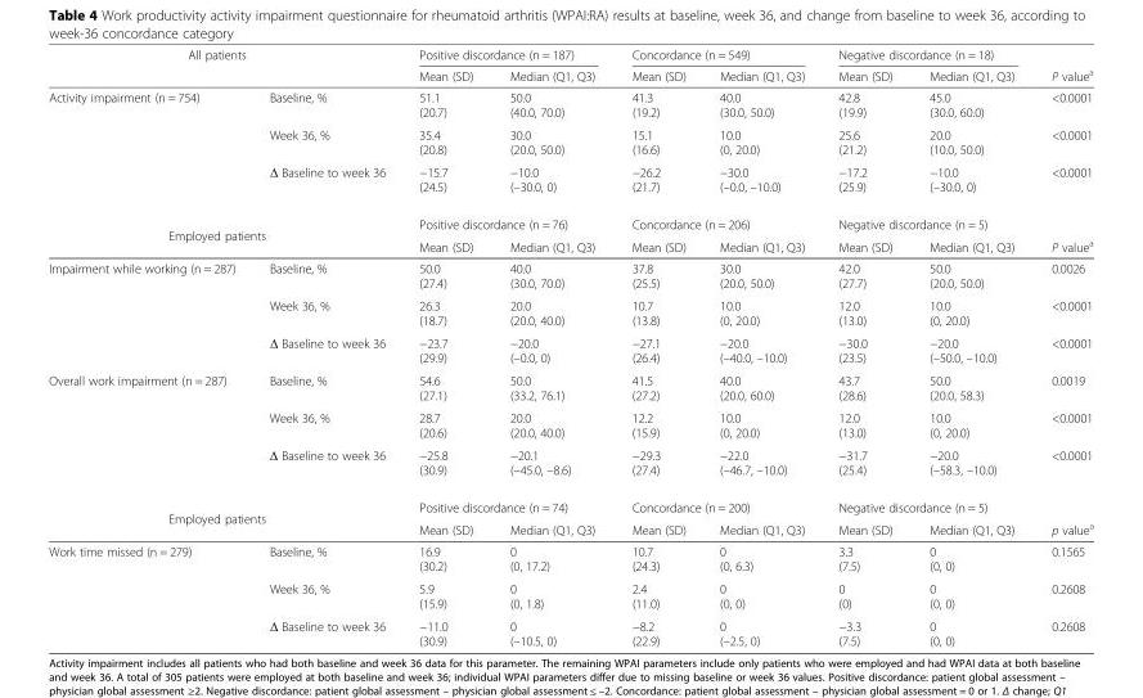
<table><thead><tr><td colspan="2">All patients</td><td colspan="2">Positive discordance (n = 187)</td><td colspan="2">Concordance (n = 549)</td><td colspan="2">Negative discordance (n = 18)</td><td rowspan="2">P valuea</td></tr><tr><td></td><td></td><td>Mean (SD)</td><td>Median (Q1, Q3)</td><td>Mean (SD)</td><td>Median (Q1, Q3)</td><td>Mean (SD)</td><td>Median (Q1, Q3)</td></tr></thead><tbody><tr><td rowspan="3">Activity impairment (n = 754)</td><td>Baseline, %</td><td>51.1 (20.7)</td><td>50.0 (40.0, 70.0)</td><td>41.3 (19.2)</td><td>40.0 (30.0, 50.0)</td><td>42.8 (19.9)</td><td>45.0 (30.0, 60.0)</td><td>&lt;0.0001</td></tr><tr><td>Week 36, %</td><td>35.4 (20.8)</td><td>30.0 (20.0, 50.0)</td><td>15.1 (16.6)</td><td>10.0 (0, 20.0)</td><td>25.6 (21.2)</td><td>20.0 (10.0, 50.0)</td><td>&lt;0.0001</td></tr><tr><td>Δ Baseline to week 36</td><td>−15.7 (24.5)</td><td>−10.0 (–30.0, 0)</td><td>−26.2 (21.7)</td><td>−30.0 (–0.0, –10.0)</td><td>−17.2 (25.9)</td><td>−10.0 (–30.0, 0)</td><td>&lt;0.0001</td></tr><tr><td rowspan="2" colspan="2">Employed patients</td><td colspan="2">Positive discordance (n = 76)</td><td colspan="2">Concordance (n = 206)</td><td colspan="2">Negative discordance (n = 5)</td><td></td></tr><tr><td>Mean (SD)</td><td>Median (Q1, Q3)</td><td>Mean (SD)</td><td>Median (Q1, Q3)</td><td>Mean (SD)</td><td>Median (Q1, Q3)</td><td>P value<sup>a</sup></td></tr><tr><td rowspan="3">Impairment while working (n = 287)</td><td>Baseline, %</td><td>50.0 (27.4)</td><td>40.0 (30.0, 70.0)</td><td>37.8 (25.5)</td><td>30.0 (20.0, 50.0)</td><td>42.0 (27.7)</td><td>50.0 (20.0, 50.0)</td><td>0.0026</td></tr><tr><td>Week 36, %</td><td>26.3 (18.7)</td><td>20.0 (20.0, 40.0)</td><td>10.7 (13.8)</td><td>10.0 (0, 20.0)</td><td>12.0 (13.0)</td><td>10.0 (0, 20.0)</td><td>&lt;0.0001</td></tr><tr><td>Δ Baseline to week 36</td><td>−23.7 (29.9)</td><td>−20.0 (–0.0, 0)</td><td>−27.1 (26.4)</td><td>−20.0 (–40.0, –10.0)</td><td>−30.0 (23.5)</td><td>−20.0 (–50.0, –10.0)</td><td>&lt;0.0001</td></tr><tr><td rowspan="3">Overall work impairment (n = 287)</td><td>Baseline, %</td><td>54.6 (27.1)</td><td>50.0 (33.2, 76.1)</td><td>41.5 (27.2)</td><td>40.0 (20.0, 60.0)</td><td>43.7 (28.6)</td><td>50.0 (20.0, 58.3)</td><td>0.0019</td></tr><tr><td>Week 36, %</td><td>28.7 (20.6)</td><td>20.0 (20.0, 40.0)</td><td>12.2 (15.9)</td><td>10.0 (0, 20.0)</td><td>12.0 (13.0)</td><td>10.0 (0, 20.0)</td><td>&lt;0.0001</td></tr><tr><td>Δ Baseline to week 36</td><td>−25.8 (30.9)</td><td>−20.1 (–45.0, –8.6)</td><td>−29.3 (27.4)</td><td>−22.0 (–46.7, –10.0)</td><td>−31.7 (25.4)</td><td>−20.0 (–58.3, –10.0)</td><td>&lt;0.0001</td></tr><tr><td rowspan="2" colspan="2">Employed patients</td><td colspan="2">Positive discordance (n = 74)</td><td colspan="2">Concordance (n = 200)</td><td colspan="2">Negative discordance (n = 5)</td><td></td></tr><tr><td>Mean (SD)</td><td>Median (Q1, Q3)</td><td>Mean (SD)</td><td>Median (Q1, Q3)</td><td>Mean (SD)</td><td>Median (Q1, Q3)</td><td>p value<sup>a</sup></td></tr><tr><td rowspan="3">Work time missed (n = 279)</td><td>Baseline, %</td><td>16.9 (30.2)</td><td>0 (0, 17.2)</td><td>10.7 (24.3)</td><td>0 (0, 6.3)</td><td>3.3 (7.5)</td><td>0 (0, 0)</td><td>0.1565</td></tr><tr><td>Week 36, %</td><td>5.9 (15.9)</td><td>0 (0, 1.8)</td><td>2.4 (11.0)</td><td>0 (0, 0)</td><td>0 (0)</td><td>0 (0, 0)</td><td>0.2608</td></tr><tr><td>Δ Baseline to week 36</td><td>−11.0 (30.9)</td><td>0 (–10.5, 0)</td><td>−8.2 (22.9)</td><td>0 (–2.5, 0)</td><td>−3.3 (7.5)</td><td>0 (0, 0)</td><td>0.2608</td></tr></tbody></table>